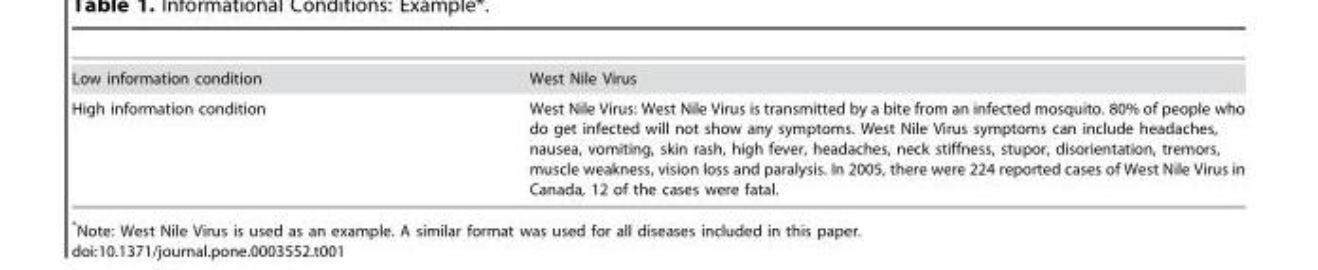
<table><tbody><tr><td>Low information condition</td><td>West Nile Virus</td></tr><tr><td>High information condition</td><td>West Nile Virus: West Nile Virus is transmitted by a bite from an infected mosquito. 80% of people who do get infected will not show any symptoms. West Nile Virus symptoms can include headaches, nausea, vomiting, skin rash, high fever, headaches, neck stiffness, stupor, disorientation, tremors, muscle weakness, vision loss and paralysis. In 2005, there were 224 reported cases of West Nile Virus in Canada, 12 of the cases were fatal.</td></tr></tbody></table>